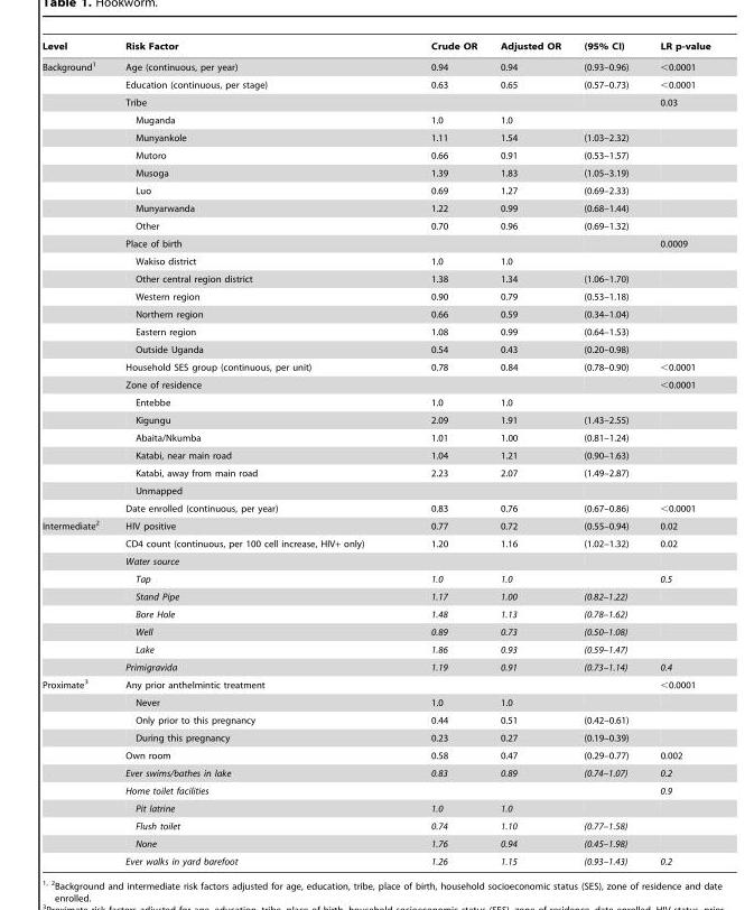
<table><thead><tr><td>Level</td><td>Risk Factor</td><td>Crude OR</td><td>Adjusted OR</td><td>(95% CI)</td><td>LR p-value</td></tr></thead><tbody><tr><td rowspan="26">Background<sup>1</sup></td><td>Age (continuous, per year)</td><td>0.94</td><td>0.94</td><td>(0.93–0.96)</td><td>&lt;0.0001</td></tr><tr><td>Education (continuous, per stage)</td><td>0.63</td><td>0.65</td><td>(0.57–0.73)</td><td>&lt;0.0001</td></tr><tr><td>Tribe</td><td></td><td></td><td></td><td>0.03</td></tr><tr><td>Muganda</td><td>1.0</td><td>1.0</td><td></td><td></td></tr><tr><td>Munyankole</td><td>1.11</td><td>1.54</td><td>(1.03–2.32)</td><td></td></tr><tr><td>Mutoro</td><td>0.66</td><td>0.91</td><td>(0.53–1.57)</td><td></td></tr><tr><td>Musoga</td><td>1.39</td><td>1.83</td><td>(1.05–3.19)</td><td></td></tr><tr><td>Luo</td><td>0.69</td><td>1.27</td><td>(0.69–2.33)</td><td></td></tr><tr><td>Munyarwanda</td><td>1.22</td><td>0.99</td><td>(0.68–1.44)</td><td></td></tr><tr><td>Other</td><td>0.70</td><td>0.96</td><td>(0.69–1.32)</td><td></td></tr><tr><td>Place of birth</td><td></td><td></td><td></td><td>0.0009</td></tr><tr><td>Wakiso district</td><td>1.0</td><td>1.0</td><td></td><td></td></tr><tr><td>Other central region district</td><td>1.38</td><td>1.34</td><td>(1.06–1.70)</td><td></td></tr><tr><td>Western region</td><td>0.90</td><td>0.79</td><td>(0.53–1.18)</td><td></td></tr><tr><td>Northern region</td><td>0.66</td><td>0.59</td><td>(0.34–1.04)</td><td></td></tr><tr><td>Eastern region</td><td>1.08</td><td>0.99</td><td>(0.64–1.53)</td><td></td></tr><tr><td>Outside Uganda</td><td>0.54</td><td>0.43</td><td>(0.20–0.98)</td><td></td></tr><tr><td>Household SES group (continuous, per unit)</td><td>0.78</td><td>0.84</td><td>(0.78–0.90)</td><td>&lt;0.0001</td></tr><tr><td>Zone of residence</td><td></td><td></td><td></td><td>&lt;0.0001</td></tr><tr><td>Entebbe</td><td>1.0</td><td>1.0</td><td></td><td></td></tr><tr><td>Kigungu</td><td>2.09</td><td>1.91</td><td>(1.43–2.55)</td><td></td></tr><tr><td>Abaita/Nkumba</td><td>1.01</td><td>1.00</td><td>(0.81–1.24)</td><td></td></tr><tr><td>Katabi, near main road</td><td>1.04</td><td>1.21</td><td>(0.90–1.63)</td><td></td></tr><tr><td>Katabi, away from main road</td><td>2.23</td><td>2.07</td><td>(1.49–2.87)</td><td></td></tr><tr><td>Unmapped</td><td></td><td></td><td></td><td></td></tr><tr><td>Date enrolled (continuous, per year)</td><td>0.83</td><td>0.76</td><td>(0.67–0.86)</td><td>&lt;0.0001</td></tr><tr><td rowspan="9">Intermediate<sup>2</sup></td><td>HIV positive</td><td>0.77</td><td>0.72</td><td>(0.55–0.94)</td><td>0.02</td></tr><tr><td>CD4 count (continuous, per 100 cell increase, HIV+ only)</td><td>1.20</td><td>1.16</td><td>(1.02–1.32)</td><td>0.02</td></tr><tr><td>Water source</td><td></td><td></td><td></td><td></td></tr><tr><td>Tap</td><td>1.0</td><td>1.0</td><td></td><td>0.5</td></tr><tr><td>Stand Pipe</td><td>1.17</td><td>1.00</td><td>(0.82–1.22)</td><td></td></tr><tr><td>Bore Hole</td><td>1.48</td><td>1.13</td><td>(0.78–1.62)</td><td></td></tr><tr><td>Well</td><td>0.89</td><td>0.73</td><td>(0.50–1.08)</td><td></td></tr><tr><td>Lake</td><td>1.86</td><td>0.93</td><td>(0.59–1.47)</td><td></td></tr><tr><td>Primigravida</td><td>1.19</td><td>0.91</td><td>(0.73–1.14)</td><td>0.4</td></tr><tr><td rowspan="11">Proximate<sup>3</sup></td><td>Any prior anthelmintic treatment</td><td></td><td></td><td></td><td>&lt;0.0001</td></tr><tr><td>Never</td><td>1.0</td><td>1.0</td><td></td><td></td></tr><tr><td>Only prior to this pregnancy</td><td>0.44</td><td>0.51</td><td>(0.42–0.61)</td><td></td></tr><tr><td>During this pregnancy</td><td>0.23</td><td>0.27</td><td>(0.19–0.39)</td><td></td></tr><tr><td>Own room</td><td>0.58</td><td>0.47</td><td>(0.29–0.77)</td><td>0.002</td></tr><tr><td>Ever swims/bathes in lake</td><td>0.83</td><td>0.89</td><td>(0.74–1.07)</td><td>0.2</td></tr><tr><td>Home toilet facilities</td><td></td><td></td><td></td><td>0.9</td></tr><tr><td>Pit latrine</td><td>1.0</td><td>1.0</td><td></td><td></td></tr><tr><td>Flush toilet</td><td>0.74</td><td>1.10</td><td>(0.77–1.58)</td><td></td></tr><tr><td>None</td><td>1.76</td><td>0.94</td><td>(0.45–1.98)</td><td></td></tr><tr><td>Ever walks in yard barefoot</td><td>1.26</td><td>1.15</td><td>(0.93–1.43)</td><td>0.2</td></tr></tbody></table>